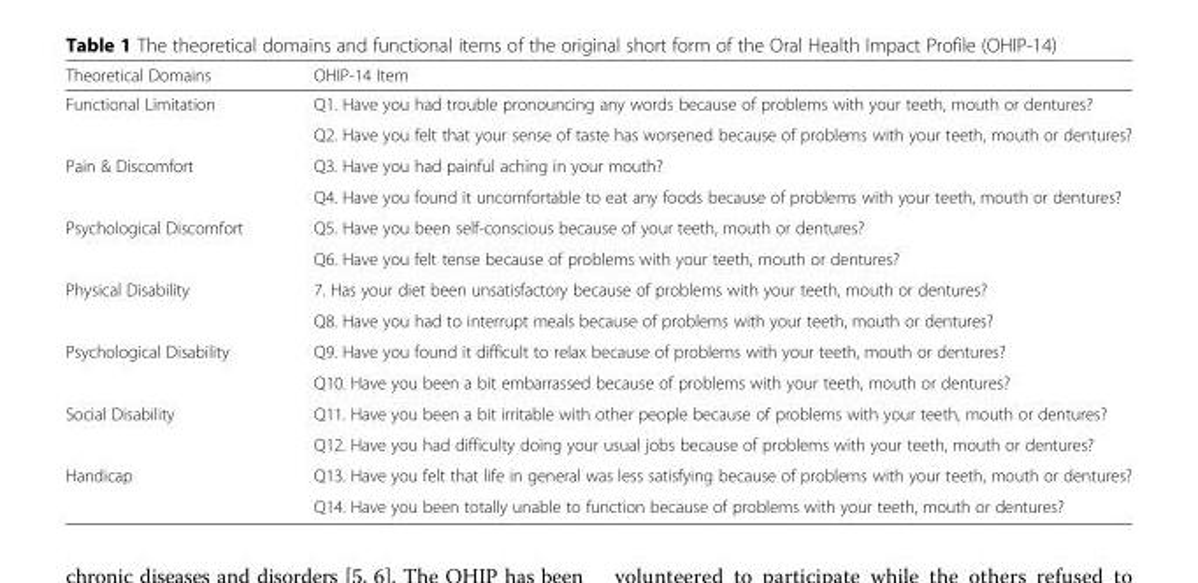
<table><thead><tr><td>Theoretical Domains</td><td>OHIP-14 Item</td></tr></thead><tbody><tr><td rowspan="2">Functional Limitation</td><td>Q1. Have you had trouble pronouncing any words because of problems with your teeth, mouth or dentures?</td></tr><tr><td>Q2. Have you felt that your sense of taste has worsened because of problems with your teeth, mouth or dentures?</td></tr><tr><td rowspan="2">Pain &amp; Discomfort</td><td>Q3. Have you had painful aching in your mouth?</td></tr><tr><td>Q4. Have you found it uncomfortable to eat any foods because of problems with your teeth, mouth or dentures?</td></tr><tr><td rowspan="2">Psychological Discomfort</td><td>Q5. Have you been self-conscious because of your teeth, mouth or dentures?</td></tr><tr><td>Q6. Have you felt tense because of problems with your teeth, mouth or dentures?</td></tr><tr><td rowspan="2">Physical Disability</td><td>7. Has your diet been unsatisfactory because of problems with your teeth, mouth or dentures?</td></tr><tr><td>Q8. Have you had to interrupt meals because of problems with your teeth, mouth or dentures?</td></tr><tr><td rowspan="2">Psychological Disability</td><td>Q9. Have you found it difficult to relax because of problems with your teeth, mouth or dentures?</td></tr><tr><td>Q10. Have you been a bit embarrassed because of problems with your teeth, mouth or dentures?</td></tr><tr><td rowspan="2">Social Disability</td><td>Q11. Have you been a bit irritable with other people because of problems with your teeth, mouth or dentures?</td></tr><tr><td>Q12. Have you had difficulty doing your usual jobs because of problems with your teeth, mouth or dentures?</td></tr><tr><td rowspan="2">Handicap</td><td>Q13. Have you felt that life in general was less satisfying because of problems with your teeth, mouth or dentures?</td></tr><tr><td>Q14. Have you been totally unable to function because of problems with your teeth, mouth or dentures?</td></tr></tbody></table>